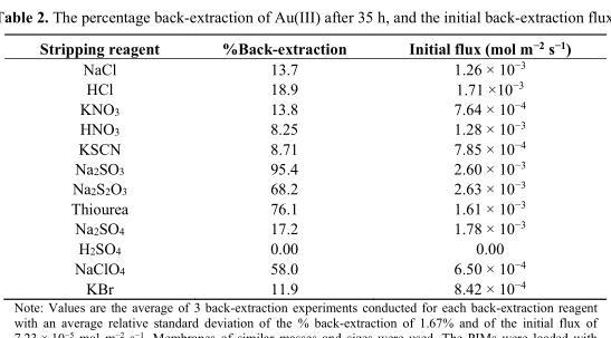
<table><thead><tr><td>Stripping reagent</td><td>%Back-extraction</td><td>Initial flux (mol m<sup>−2</sup> s<sup>−1</sup>)</td></tr></thead><tbody><tr><td>NaCl</td><td>13.7</td><td>1.26 × 10<sup>−3</sup></td></tr><tr><td>HCl</td><td>18.9</td><td>1.71 ×10<sup>−3</sup></td></tr><tr><td>KNO<sub>3</sub></td><td>13.8</td><td>7.64 × 10<sup>−4</sup></td></tr><tr><td>HNO<sub>3</sub></td><td>8.25</td><td>1.28 × 10<sup>−3</sup></td></tr><tr><td>KSCN</td><td>8.71</td><td>7.85 × 10<sup>−4</sup></td></tr><tr><td>Na<sub>2</sub>SO<sub>3</sub></td><td>95.4</td><td>2.60 × 10<sup>−3</sup></td></tr><tr><td>Na<sub>2</sub>S<sub>2</sub>O<sub>3</sub></td><td>68.2</td><td>2.63 × 10<sup>−3</sup></td></tr><tr><td>Thiourea</td><td>76.1</td><td>1.61 × 10<sup>−3</sup></td></tr><tr><td>Na<sub>2</sub>SO<sub>4</sub></td><td>17.2</td><td>1.78 × 10<sup>−3</sup></td></tr><tr><td>H<sub>2</sub>SO<sub>4</sub></td><td>0.00</td><td>0.00</td></tr><tr><td>NaClO<sub>4</sub></td><td>58.0</td><td>6.50 × 10<sup>−4</sup></td></tr><tr><td>KBr</td><td>11.9</td><td>8.42 × 10<sup>−4</sup></td></tr></tbody></table>